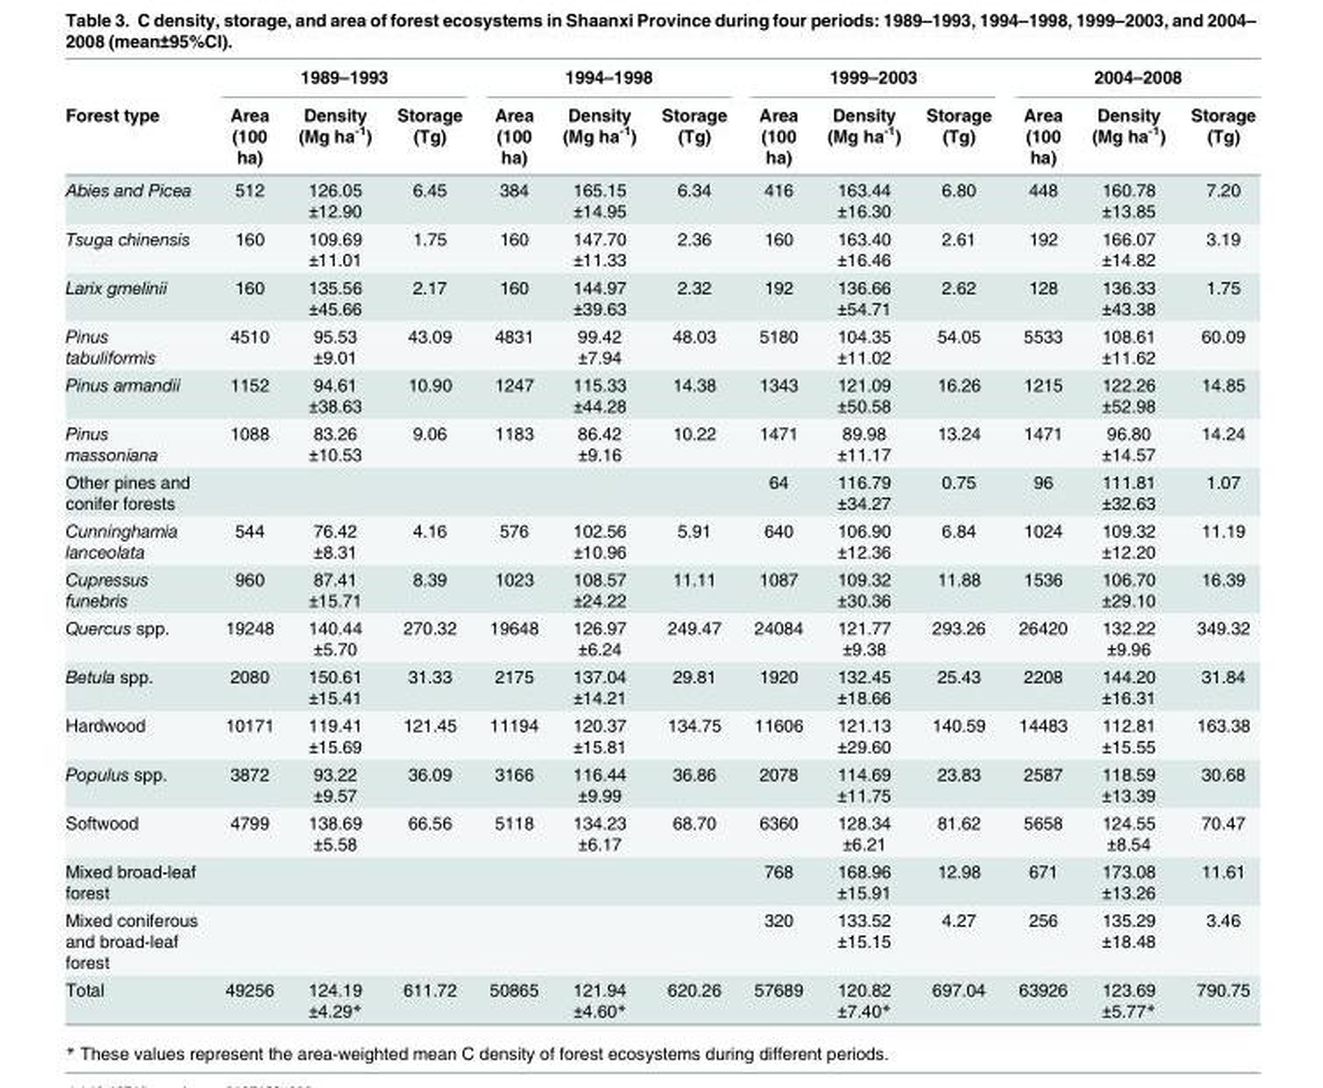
<table><thead><tr><td rowspan="2">Forest type</td><td colspan="3">1989–1993</td><td colspan="3">1994–1998</td><td colspan="3">1999–2003</td><td colspan="3">2004–2008</td></tr><tr><td>Area (100 ha)</td><td>Density (Mg ha<sup>-1</sup>)</td><td>Storage (Tg)</td><td>Area (100 ha)</td><td>Density (Mg ha<sup>-1</sup>)</td><td>Storage (Tg)</td><td>Area (100 ha)</td><td>Density (Mg ha<sup>-1</sup>)</td><td>Storage (Tg)</td><td>Area (100 ha)</td><td>Density (Mg ha<sup>-1</sup>)</td><td>Storage (Tg)</td></tr></thead><tbody><tr><td>Abies and Picea</td><td>512</td><td>126.05 ±12.90</td><td>6.45</td><td>384</td><td>165.15 ±14.95</td><td>6.34</td><td>416</td><td>163.44 ±16.30</td><td>6.80</td><td>448</td><td>160.78 ±13.85</td><td>7.20</td></tr><tr><td>Tsuga chinensis</td><td>160</td><td>109.69 ±11.01</td><td>1.75</td><td>160</td><td>147.70 ±11.33</td><td>2.36</td><td>160</td><td>163.40 ±16.46</td><td>2.61</td><td>192</td><td>166.07 ±14.82</td><td>3.19</td></tr><tr><td>Larix gmelinii</td><td>160</td><td>135.56 ±45.66</td><td>2.17</td><td>160</td><td>144.97 ±39.63</td><td>2.32</td><td>192</td><td>136.66 ±54.71</td><td>2.62</td><td>128</td><td>136.33 ±43.38</td><td>1.75</td></tr><tr><td>Pinus tabuliformis</td><td>4510</td><td>95.53 ±9.01</td><td>43.09</td><td>4831</td><td>99.42 ±7.94</td><td>48.03</td><td>5180</td><td>104.35 ±11.02</td><td>54.05</td><td>5533</td><td>108.61 ±11.62</td><td>60.09</td></tr><tr><td>Pinus armandii</td><td>1152</td><td>94.61 ±38.63</td><td>10.90</td><td>1247</td><td>115.33 ±44.28</td><td>14.38</td><td>1343</td><td>121.09 ±50.58</td><td>16.26</td><td>1215</td><td>122.26 ±52.98</td><td>14.85</td></tr><tr><td>Pinus massoniana</td><td>1088</td><td>83.26 ±10.53</td><td>9.06</td><td>1183</td><td>86.42 ±9.16</td><td>10.22</td><td>1471</td><td>89.98 ±11.17</td><td>13.24</td><td>1471</td><td>96.80 ±14.57</td><td>14.24</td></tr><tr><td>Other pines and conifer forests</td><td></td><td></td><td></td><td></td><td></td><td></td><td>64</td><td>116.79 ±34.27</td><td>0.75</td><td>96</td><td>111.81 ±32.63</td><td>1.07</td></tr><tr><td>Cunninghamia lanceolata</td><td>544</td><td>76.42 ±8.31</td><td>4.16</td><td>576</td><td>102.56 ±10.96</td><td>5.91</td><td>640</td><td>106.90 ±12.36</td><td>6.84</td><td>1024</td><td>109.32 ±12.20</td><td>11.19</td></tr><tr><td>Cupressus funebris</td><td>960</td><td>87.41 ±15.71</td><td>8.39</td><td>1023</td><td>108.57 ±24.22</td><td>11.11</td><td>1087</td><td>109.32 ±30.36</td><td>11.88</td><td>1536</td><td>106.70 ±29.10</td><td>16.39</td></tr><tr><td>Quercus spp.</td><td>19248</td><td>140.44 ±5.70</td><td>270.32</td><td>19648</td><td>126.97 ±6.24</td><td>249.47</td><td>24084</td><td>121.77 ±9.38</td><td>293.26</td><td>26420</td><td>132.22 ±9.96</td><td>349.32</td></tr><tr><td>Betula spp.</td><td>2080</td><td>150.61 ±15.41</td><td>31.33</td><td>2175</td><td>137.04 ±14.21</td><td>29.81</td><td>1920</td><td>132.45 ±18.66</td><td>25.43</td><td>2208</td><td>144.20 ±16.31</td><td>31.84</td></tr><tr><td>Hardwood</td><td>10171</td><td>119.41 ±15.69</td><td>121.45</td><td>11194</td><td>120.37 ±15.81</td><td>134.75</td><td>11606</td><td>121.13 ±29.60</td><td>140.59</td><td>14483</td><td>112.81 ±15.55</td><td>163.38</td></tr><tr><td>Populus spp.</td><td>3872</td><td>93.22 ±9.57</td><td>36.09</td><td>3166</td><td>116.44 ±9.99</td><td>36.86</td><td>2078</td><td>114.69 ±11.75</td><td>23.83</td><td>2587</td><td>118.59 ±13.39</td><td>30.68</td></tr><tr><td>Softwood</td><td>4799</td><td>138.69 ±5.58</td><td>66.56</td><td>5118</td><td>134.23 ±6.17</td><td>68.70</td><td>6360</td><td>128.34 ±6.21</td><td>81.62</td><td>5658</td><td>124.55 ±8.54</td><td>70.47</td></tr><tr><td>Mixed broad-leaf forest</td><td></td><td></td><td></td><td></td><td></td><td></td><td>768</td><td>168.96 ±15.91</td><td>12.98</td><td>671</td><td>173.08 ±13.26</td><td>11.61</td></tr><tr><td>Mixed coniferous and broad-leaf forest</td><td></td><td></td><td></td><td></td><td></td><td></td><td>320</td><td>133.52 ±15.15</td><td>4.27</td><td>256</td><td>135.29 ±18.48</td><td>3.46</td></tr><tr><td>Total</td><td>49256</td><td>124.19 ±4.29*</td><td>611.72</td><td>50865</td><td>121.94 ±4.60*</td><td>620.26</td><td>57689</td><td>120.82 ±7.40*</td><td>697.04</td><td>63926</td><td>123.69 ±5.77*</td><td>790.75</td></tr></tbody></table>